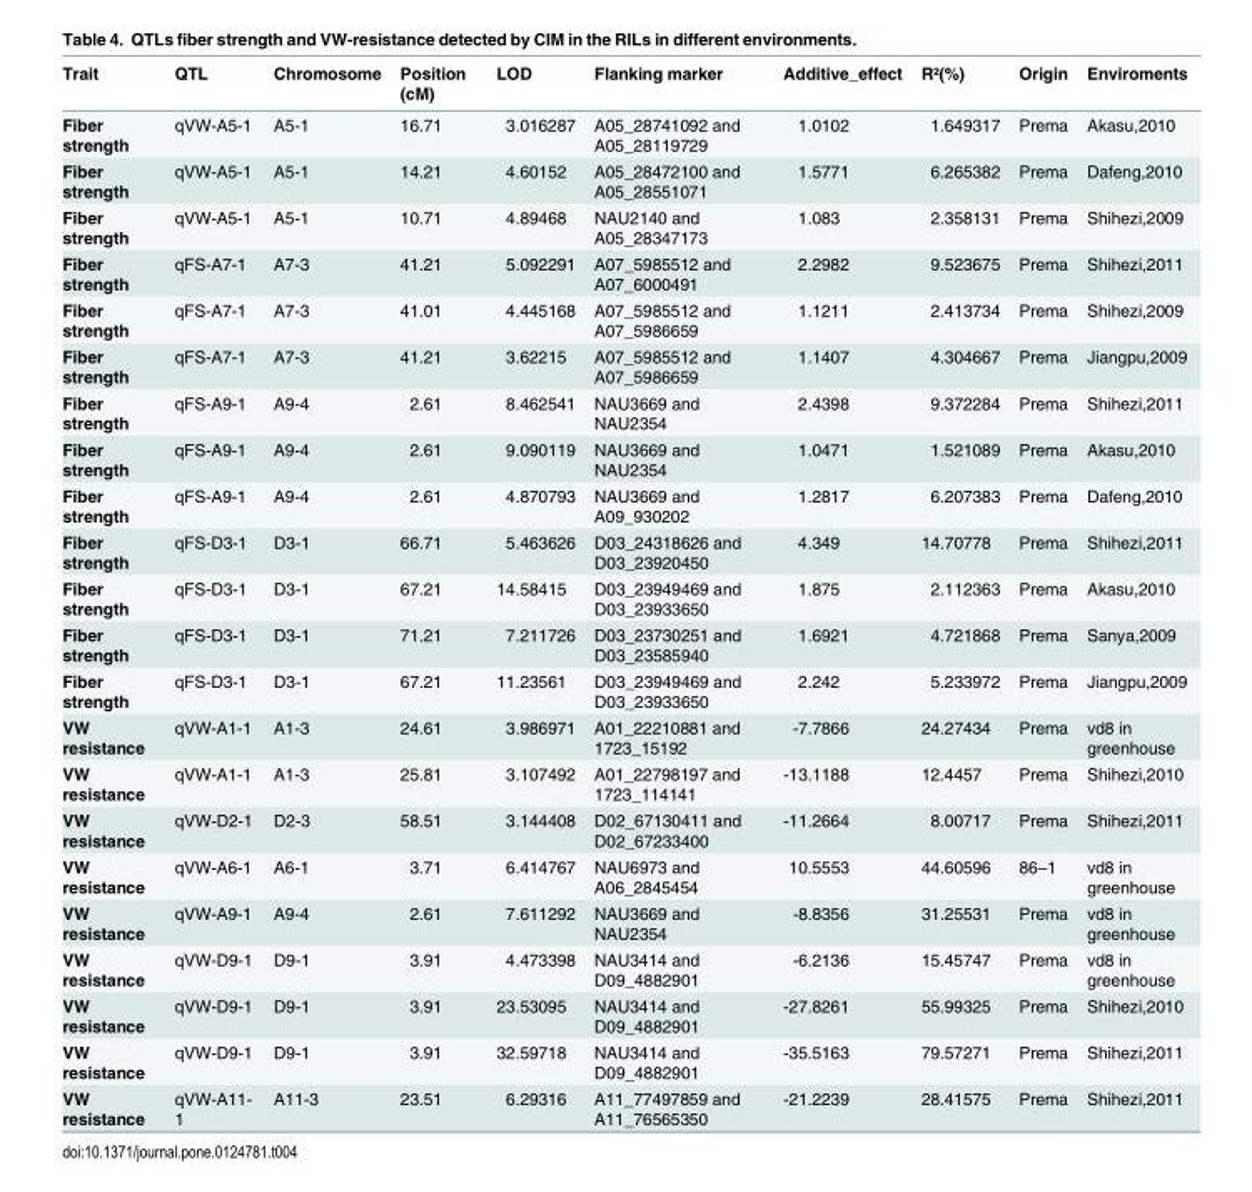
<table><thead><tr><td>Trait</td><td>QTL</td><td>Chromosome</td><td>Position (cM)</td><td>LOD</td><td>Flanking marker</td><td>Additive_effect</td><td>R²(%)</td><td>Origin</td><td>Enviroments</td></tr></thead><tbody><tr><td>Fiber strength</td><td>qVW-A5-1</td><td>A5-1</td><td>16.71</td><td>3.016287</td><td>A05_28741092 and A05_28119729</td><td>1.0102</td><td>1.649317</td><td>Prema</td><td>Akasu,2010</td></tr><tr><td>Fiber strength</td><td>qVW-A5-1</td><td>A5-1</td><td>14.21</td><td>4.60152</td><td>A05_28472100 and A05_28551071</td><td>1.5771</td><td>6.265382</td><td>Prema</td><td>Dafeng,2010</td></tr><tr><td>Fiber strength</td><td>qVW-A5-1</td><td>A5-1</td><td>10.71</td><td>4.89468</td><td>NAU2140 and A05_28347173</td><td>1.083</td><td>2.358131</td><td>Prema</td><td>Shihezi,2009</td></tr><tr><td>Fiber strength</td><td>qFS-A7-1</td><td>A7-3</td><td>41.21</td><td>5.092291</td><td>A07_5985512 and A07_6000491</td><td>2.2982</td><td>9.523675</td><td>Prema</td><td>Shihezi,2011</td></tr><tr><td>Fiber strength</td><td>qFS-A7-1</td><td>A7-3</td><td>41.01</td><td>4.445168</td><td>A07_5985512 and A07_5986659</td><td>1.1211</td><td>2.413734</td><td>Prema</td><td>Shihezi,2009</td></tr><tr><td>Fiber strength</td><td>qFS-A7-1</td><td>A7-3</td><td>41.21</td><td>3.62215</td><td>A07_5985512 and A07_5986659</td><td>1.1407</td><td>4.304667</td><td>Prema</td><td>Jiangpu,2009</td></tr><tr><td>Fiber strength</td><td>qFS-A9-1</td><td>A9-4</td><td>2.61</td><td>8.462541</td><td>NAU3669 and NAU2354</td><td>2.4398</td><td>9.372284</td><td>Prema</td><td>Shihezi,2011</td></tr><tr><td>Fiber strength</td><td>qFS-A9-1</td><td>A9-4</td><td>2.61</td><td>9.090119</td><td>NAU3669 and NAU2354</td><td>1.0471</td><td>1.521089</td><td>Prema</td><td>Akasu,2010</td></tr><tr><td>Fiber strength</td><td>qFS-A9-1</td><td>A9-4</td><td>2.61</td><td>4.870793</td><td>NAU3669 and A09_930202</td><td>1.2817</td><td>6.207383</td><td>Prema</td><td>Dafeng,2010</td></tr><tr><td>Fiber strength</td><td>qFS-D3-1</td><td>D3-1</td><td>66.71</td><td>5.463626</td><td>D03_24318626 and D03_23920450</td><td>4.349</td><td>14.70778</td><td>Prema</td><td>Shihezi,2011</td></tr><tr><td>Fiber strength</td><td>qFS-D3-1</td><td>D3-1</td><td>67.21</td><td>14.58415</td><td>D03_23949469 and D03_23933650</td><td>1.875</td><td>2.112363</td><td>Prema</td><td>Akasu,2010</td></tr><tr><td>Fiber strength</td><td>qFS-D3-1</td><td>D3-1</td><td>71.21</td><td>7.211726</td><td>D03_23730251 and D03_23585940</td><td>1.6921</td><td>4.721868</td><td>Prema</td><td>Sanya,2009</td></tr><tr><td>Fiber strength</td><td>qFS-D3-1</td><td>D3-1</td><td>67.21</td><td>11.23561</td><td>D03_23949469 and D03_23933650</td><td>2.242</td><td>5.233972</td><td>Prema</td><td>Jiangpu,2009</td></tr><tr><td>VW resistance</td><td>qVW-A1-1</td><td>A1-3</td><td>24.61</td><td>3.986971</td><td>A01_22210881 and 1723_15192</td><td>-7.7866</td><td>24.27434</td><td>Prema</td><td>vd8 in greenhouse</td></tr><tr><td>VW resistance</td><td>qVW-A1-1</td><td>A1-3</td><td>25.81</td><td>3.107492</td><td>A01_22798197 and 1723_114141</td><td>-13.1188</td><td>12.4457</td><td>Prema</td><td>Shihezi,2010</td></tr><tr><td>VW resistance</td><td>qVW-D2-1</td><td>D2-3</td><td>58.51</td><td>3.144408</td><td>D02_67130411 and D02_67233400</td><td>-11.2664</td><td>8.00717</td><td>Prema</td><td>Shihezi,2011</td></tr><tr><td>VW resistance</td><td>qVW-A6-1</td><td>A6-1</td><td>3.71</td><td>6.414767</td><td>NAU6973 and A06_2845454</td><td>10.5553</td><td>44.60596</td><td>86–1</td><td>vd8 in greenhouse</td></tr><tr><td>VW resistance</td><td>qVW-A9-1</td><td>A9-4</td><td>2.61</td><td>7.611292</td><td>NAU3669 and NAU2354</td><td>-8.8356</td><td>31.25531</td><td>Prema</td><td>vd8 in greenhouse</td></tr><tr><td>VW resistance</td><td>qVW-D9-1</td><td>D9-1</td><td>3.91</td><td>4.473398</td><td>NAU3414 and D09_4882901</td><td>-6.2136</td><td>15.45747</td><td>Prema</td><td>vd8 in greenhouse</td></tr><tr><td>VW resistance</td><td>qVW-D9-1</td><td>D9-1</td><td>3.91</td><td>23.53095</td><td>NAU3414 and D09_4882901</td><td>-27.8261</td><td>55.99325</td><td>Prema</td><td>Shihezi,2010</td></tr><tr><td>VW resistance</td><td>qVW-D9-1</td><td>D9-1</td><td>3.91</td><td>32.59718</td><td>NAU3414 and D09_4882901</td><td>-35.5163</td><td>79.57271</td><td>Prema</td><td>Shihezi,2011</td></tr><tr><td>VW resistance</td><td>qVW-A11- 1</td><td>A11-3</td><td>23.51</td><td>6.29316</td><td>A11_77497859 and A11_76565350</td><td>-21.2239</td><td>28.41575</td><td>Prema</td><td>Shihezi,2011</td></tr></tbody></table>